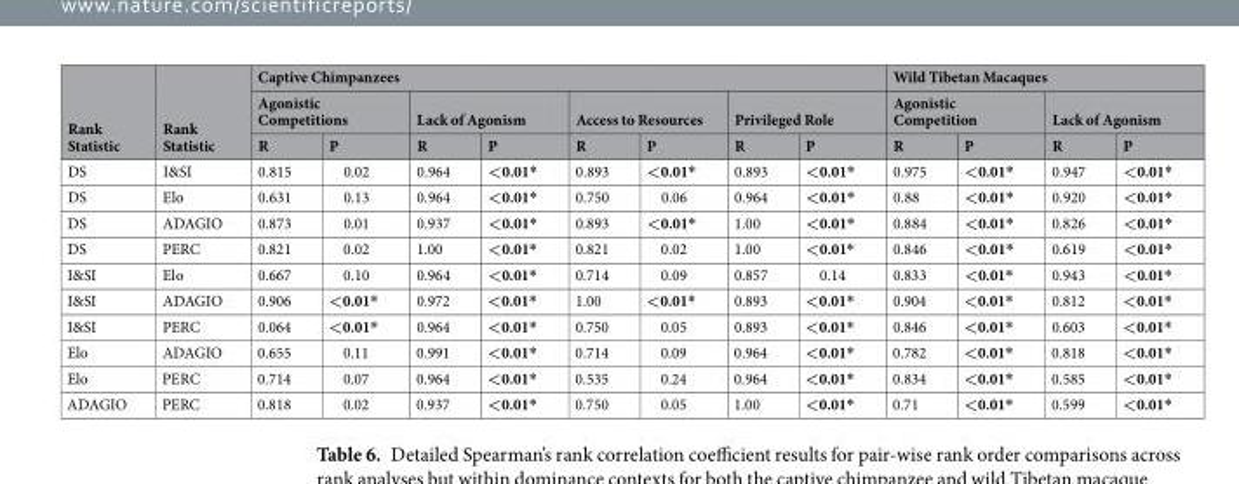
<table><thead><tr><td rowspan="3">Rank Statistic</td><td rowspan="3">Rank Statistic</td><td colspan="8">Captive Chimpanzees</td><td colspan="4">Wild Tibetan Macaques</td></tr><tr><td colspan="2">Agonistic Competitions</td><td colspan="2">Lack of Agonism</td><td colspan="2">Access to Resources</td><td colspan="2">Privileged Role</td><td colspan="2">Agonistic Competition</td><td colspan="2">Lack of Agonism</td></tr><tr><td>R</td><td>P</td><td>R</td><td>P</td><td>R</td><td>P</td><td>R</td><td>P</td><td>R</td><td>P</td><td>R</td><td>P</td></tr></thead><tbody><tr><td>DS</td><td>I&amp;SI</td><td>0.815</td><td>0.02</td><td>0.964</td><td>&lt;0.01*</td><td>0.893</td><td>&lt;0.01*</td><td>0.893</td><td>&lt;0.01*</td><td>0.975</td><td>&lt;0.01*</td><td>0.947</td><td>&lt;0.01*</td></tr><tr><td>DS</td><td>Elo</td><td>0.631</td><td>0.13</td><td>0.964</td><td>&lt;0.01*</td><td>0.750</td><td>0.06</td><td>0.964</td><td>&lt;0.01*</td><td>0.88</td><td>&lt;0.01*</td><td>0.920</td><td>&lt;0.01*</td></tr><tr><td>DS</td><td>ADAGIO</td><td>0.873</td><td>0.01</td><td>0.937</td><td>&lt;0.01*</td><td>0.893</td><td>&lt;0.01*</td><td>1.00</td><td>&lt;0.01*</td><td>0.884</td><td>&lt;0.01*</td><td>0.826</td><td>&lt;0.01*</td></tr><tr><td>DS</td><td>PERC</td><td>0.821</td><td>0.02</td><td>1.00</td><td>&lt;0.01*</td><td>0.821</td><td>0.02</td><td>1.00</td><td>&lt;0.01*</td><td>0.846</td><td>&lt;0.01*</td><td>0.619</td><td>&lt;0.01*</td></tr><tr><td>I&amp;SI</td><td>Elo</td><td>0.667</td><td>0.10</td><td>0.964</td><td>&lt;0.01*</td><td>0.714</td><td>0.09</td><td>0.857</td><td>0.14</td><td>0.833</td><td>&lt;0.01*</td><td>0.943</td><td>&lt;0.01*</td></tr><tr><td>I&amp;SI</td><td>ADAGIO</td><td>0.906</td><td>&lt;0.01*</td><td>0.972</td><td>&lt;0.01*</td><td>1.00</td><td>&lt;0.01*</td><td>0.893</td><td>&lt;0.01*</td><td>0.904</td><td>&lt;0.01*</td><td>0.812</td><td>&lt;0.01*</td></tr><tr><td>I&amp;SI</td><td>PERC</td><td>0.064</td><td>&lt;0.01*</td><td>0.964</td><td>&lt;0.01*</td><td>0.750</td><td>0.05</td><td>0.893</td><td>&lt;0.01*</td><td>0.846</td><td>&lt;0.01*</td><td>0.603</td><td>&lt;0.01*</td></tr><tr><td>Elo</td><td>ADAGIO</td><td>0.655</td><td>0.11</td><td>0.991</td><td>&lt;0.01*</td><td>0.714</td><td>0.09</td><td>0.964</td><td>&lt;0.01*</td><td>0.782</td><td>&lt;0.01*</td><td>0.818</td><td>&lt;0.01*</td></tr><tr><td>Elo</td><td>PERC</td><td>0.714</td><td>0.07</td><td>0.964</td><td>&lt;0.01*</td><td>0.535</td><td>0.24</td><td>0.964</td><td>&lt;0.01*</td><td>0.834</td><td>&lt;0.01*</td><td>0.585</td><td>&lt;0.01*</td></tr><tr><td>ADAGIO</td><td>PERC</td><td>0.818</td><td>0.02</td><td>0.937</td><td>&lt;0.01*</td><td>0.750</td><td>0.05</td><td>1.00</td><td>&lt;0.01*</td><td>0.71</td><td>&lt;0.01*</td><td>0.599</td><td>&lt;0.01*</td></tr></tbody></table>